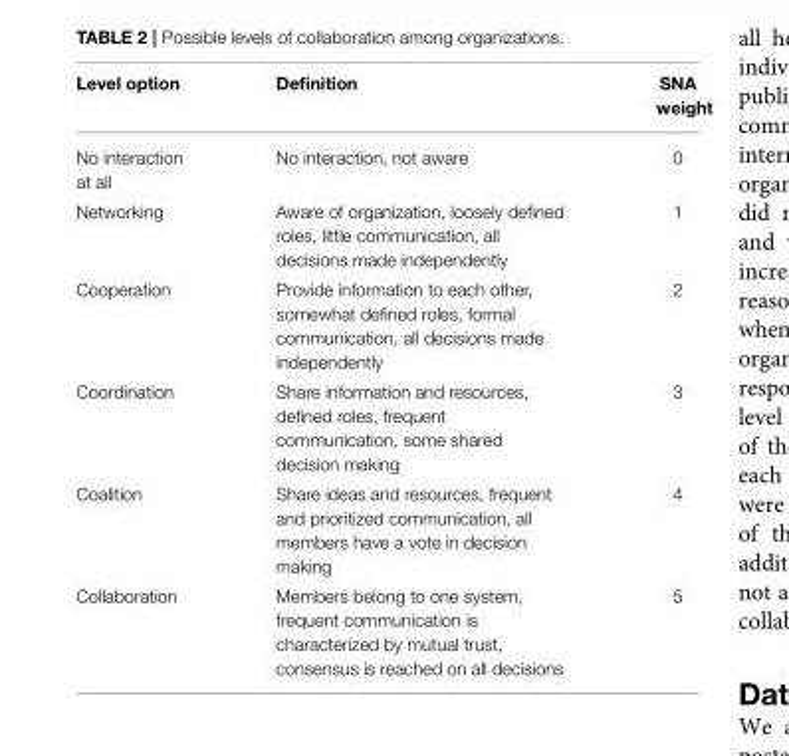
<table><thead><tr><td>Level option</td><td>Definition</td><td>SNA weight</td></tr></thead><tbody><tr><td>No interaction at all</td><td>No interaction, not aware</td><td>0</td></tr><tr><td>Networking</td><td>Aware of organization, loosely defined roles, little communication, all decisions made independently</td><td>1</td></tr><tr><td>Cooperation</td><td>Provide information to each other, somewhat defined roles, formal communication, all decisions made independently</td><td>2</td></tr><tr><td>Coordination</td><td>Share information and resources, defined roles, frequent communication, some shared decision making</td><td>3</td></tr><tr><td>Coalition</td><td>Share ideas and resources, frequent and prioritized communication, all members have a vote in decision making</td><td>4</td></tr><tr><td>Collaboration</td><td>Members belong to one system, frequent communication is characterized by mutual trust, consensus is reached on all decisions</td><td>5</td></tr></tbody></table>